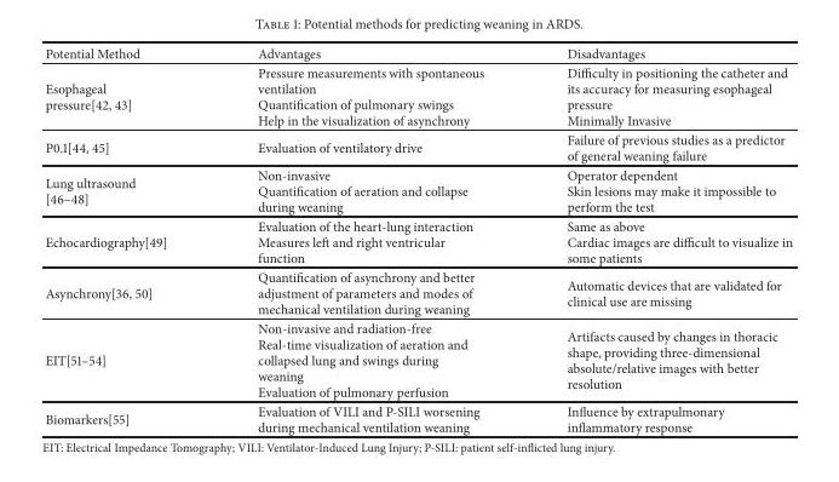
<table><thead><tr><td>Potential Method</td><td>Advantages</td><td>Disadvantages</td></tr></thead><tbody><tr><td>Esophageal pressure[42, 43]</td><td>Pressure measurements with spontaneous ventilation Quantification of pulmonary swings Help in the visualization of asynchrony</td><td>Difficulty in positioning the catheter and its accuracy for measuring esophageal pressure Minimally Invasive</td></tr><tr><td>P0.1[44, 45]</td><td>Evaluation of ventilatory drive</td><td>Failure of previous studies as a predictor of general weaning failure</td></tr><tr><td>Lung ultrasound [46–48]</td><td>Non-invasive Quantification of aeration and collapse during weaning</td><td>Operator dependent Skin lesions may make it impossible to perform the test</td></tr><tr><td>Echocardiography[49]</td><td>Evaluation of the heart-lung interaction Measures left and right ventricular function</td><td>Same as above Cardiac images are difficult to visualize in some patients</td></tr><tr><td>Asynchrony[36, 50]</td><td>Quantification of asynchrony and better adjustment of parameters and modes of mechanical ventilation during weaning</td><td>Automatic devices that are validated for clinical use are missing</td></tr><tr><td>EIT[51–54]</td><td>Non-invasive and radiation-free Real-time visualization of aeration and collapsed lung and swings during weaning Evaluation of pulmonary perfusion</td><td>Artifacts caused by changes in thoracic shape, providing three-dimensional absolute/relative images with better resolution</td></tr><tr><td>Biomarkers[55]</td><td>Evaluation of VILI and P-SILI worsening during mechanical ventilation weaning</td><td>Influence by extrapulmonary inflammatory response</td></tr></tbody></table>